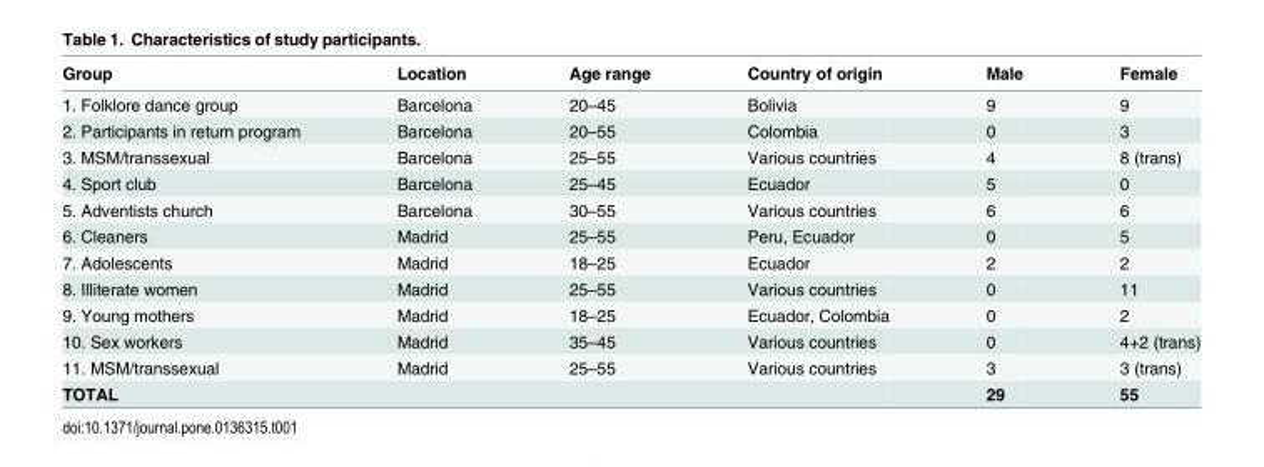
<table><thead><tr><td>Group</td><td>Location</td><td>Age range</td><td>Country of origin</td><td>Male</td><td>Female</td></tr></thead><tbody><tr><td>1. Folklore dance group</td><td>Barcelona</td><td>20–45</td><td>Bolivia</td><td>9</td><td>9</td></tr><tr><td>2. Participants in return program</td><td>Barcelona</td><td>20–55</td><td>Colombia</td><td>0</td><td>3</td></tr><tr><td>3. MSM/transsexual</td><td>Barcelona</td><td>25–55</td><td>Various countries</td><td>4</td><td>8 (trans)</td></tr><tr><td>4. Sport club</td><td>Barcelona</td><td>25–45</td><td>Ecuador</td><td>5</td><td>0</td></tr><tr><td>5. Adventists church</td><td>Barcelona</td><td>30–55</td><td>Various countries</td><td>6</td><td>6</td></tr><tr><td>6. Cleaners</td><td>Madrid</td><td>25–55</td><td>Peru, Ecuador</td><td>0</td><td>5</td></tr><tr><td>7. Adolescents</td><td>Madrid</td><td>18–25</td><td>Ecuador</td><td>2</td><td>2</td></tr><tr><td>8. Illiterate women</td><td>Madrid</td><td>25–55</td><td>Various countries</td><td>0</td><td>11</td></tr><tr><td>9. Young mothers</td><td>Madrid</td><td>18–25</td><td>Ecuador, Colombia</td><td>0</td><td>2</td></tr><tr><td>10. Sex workers</td><td>Madrid</td><td>35–45</td><td>Various countries</td><td>0</td><td>4+2 (trans)</td></tr><tr><td>11. MSM/transsexual</td><td>Madrid</td><td>25–55</td><td>Various countries</td><td>3</td><td>3 (trans)</td></tr><tr><td colspan="4">TOTAL</td><td>29</td><td>55</td></tr></tbody></table>